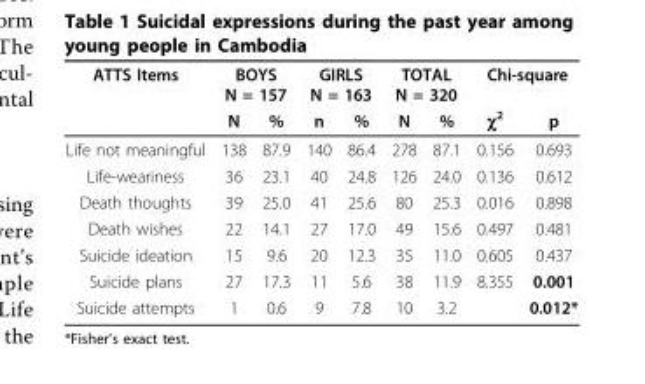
<table><thead><tr><td rowspan="2">ATTS Items</td><td colspan="2">BOYS N = 157</td><td colspan="2">GIRLS N = 163</td><td colspan="2">TOTAL N = 320</td><td colspan="2">Chi-square</td></tr><tr><td>N</td><td>%</td><td>n</td><td>%</td><td>N</td><td>%</td><td>χ<sup>2</sup></td><td>p</td></tr></thead><tbody><tr><td>Life not meaningful</td><td>138</td><td>87.9</td><td>140</td><td>86.4</td><td>278</td><td>87.1</td><td>0.156</td><td>0.693</td></tr><tr><td>Life-weariness</td><td>36</td><td>23.1</td><td>40</td><td>24.8</td><td>126</td><td>24.0</td><td>0.136</td><td>0.612</td></tr><tr><td>Death thoughts</td><td>39</td><td>25.0</td><td>41</td><td>25.6</td><td>80</td><td>25.3</td><td>0.016</td><td>0.898</td></tr><tr><td>Death wishes</td><td>22</td><td>14.1</td><td>27</td><td>17.0</td><td>49</td><td>15.6</td><td>0.497</td><td>0.481</td></tr><tr><td>Suicide ideation</td><td>15</td><td>9.6</td><td>20</td><td>12.3</td><td>35</td><td>11.0</td><td>0.605</td><td>0.437</td></tr><tr><td>Suicide plans</td><td>27</td><td>17.3</td><td>11</td><td>5.6</td><td>38</td><td>11.9</td><td>8.355</td><td>0.001</td></tr><tr><td>Suicide attempts</td><td>1</td><td>0.6</td><td>9</td><td>7.8</td><td>10</td><td>3.2</td><td></td><td>0.012*</td></tr></tbody></table>